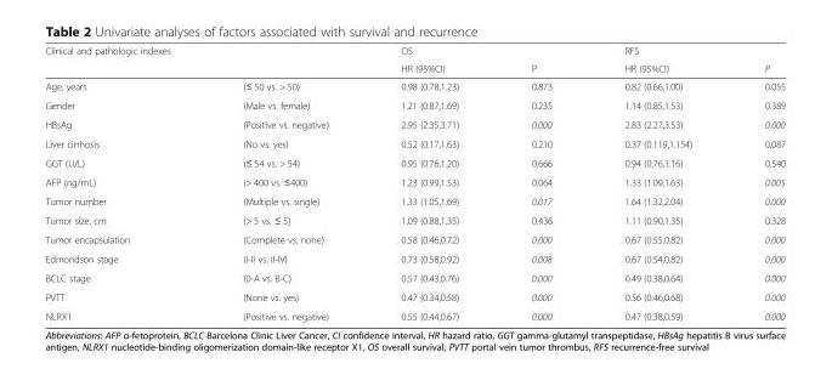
<table><thead><tr><td rowspan="2">Clinical and pathologic indexes</td><td rowspan="2"></td><td rowspan="2">OS HR (95%CI)</td><td rowspan="2">P</td><td rowspan="2">RFS HR (95%CI)</td><td rowspan="2">P</td></tr><tr></tr></thead><tbody><tr><td>Age, years</td><td>(≤ 50 vs. &gt; 50)</td><td>0.98 (0.78,1.23)</td><td>0.873</td><td>0.82 (0.66,1.00)</td><td>0.055</td></tr><tr><td>Gender</td><td>(Male vs. female)</td><td>1.21 (0.87,1.69)</td><td>0.235</td><td>1.14 (0.85,1.53)</td><td>0.389</td></tr><tr><td>HBsAg</td><td>(Positive vs. negative)</td><td>2.95 (2.35,3.71)</td><td>0.000</td><td>2.83 (2.27,3.53)</td><td>0.000</td></tr><tr><td>Liver cirrhosis</td><td>(No vs. yes)</td><td>0.52 (0.17,1.63)</td><td>0.210</td><td>0.37 (0.119,1.154)</td><td>0.087</td></tr><tr><td>GGT (U/L)</td><td>(≤ 54 vs. &gt; 54)</td><td>0.95 (0.76,1.20)</td><td>0.666</td><td>0.94 (0.76,1.16)</td><td>0.540</td></tr><tr><td>AFP (ng/mL)</td><td>(&gt; 400 vs. ≤400)</td><td>1.23 (0.99,1.53)</td><td>0.064</td><td>1.33 (1.09,1.63)</td><td>0.005</td></tr><tr><td>Tumor number</td><td>(Multiple vs. single)</td><td>1.33 (1.05,1.69)</td><td>0.017</td><td>1.64 (1.32,2.04)</td><td>0.000</td></tr><tr><td>Tumor size, cm</td><td>(&gt; 5 vs. ≤ 5)</td><td>1.09 (0.88,1.35)</td><td>0.436</td><td>1.11 (0.90,1.35)</td><td>0.328</td></tr><tr><td>Tumor encapsulation</td><td>(Complete vs. none)</td><td>0.58 (0.46,0.72)</td><td>0.000</td><td>0.67 (0.55,0.82)</td><td>0.000</td></tr><tr><td>Edmondson stage</td><td>(I-II vs. II-IV)</td><td>0.73 (0.58,0.92)</td><td>0.008</td><td>0.67 (0.54,0.82)</td><td>0.000</td></tr><tr><td>BCLC stage</td><td>(0-A vs. B-C)</td><td>0.57 (0.43,0.76)</td><td>0.000</td><td>0.49 (0.38,0.64)</td><td>0.000</td></tr><tr><td>PVTT</td><td>(None vs. yes)</td><td>0.47 (0.34,0.58)</td><td>0.000</td><td>0.56 (0.46,0.68)</td><td>0.000</td></tr><tr><td>NLRX1</td><td>(Positive vs. negative)</td><td>0.55 (0.44,0.67)</td><td>0.000</td><td>0.47 (0.38,0.59)</td><td>0.000</td></tr></tbody></table>